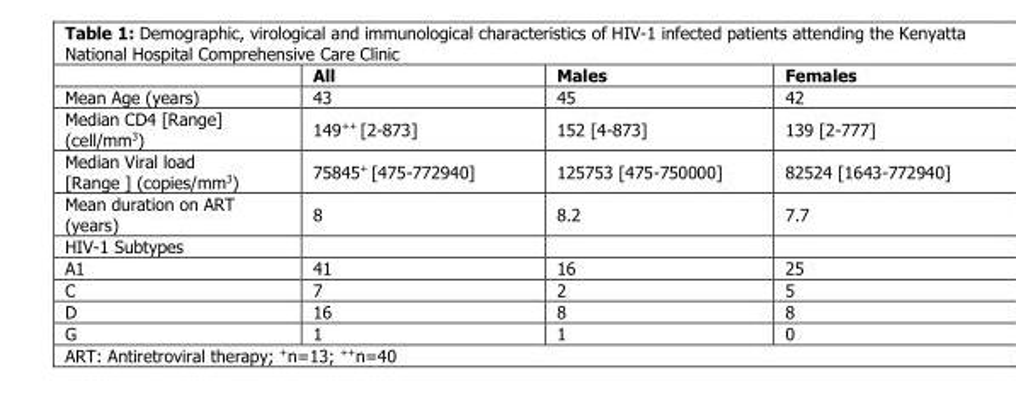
<table><thead><tr><td></td><td>All</td><td>Males</td><td>Females</td></tr></thead><tbody><tr><td>Mean Age (years)</td><td>43</td><td>45</td><td>42</td></tr><tr><td>Median CD4 [Range] (cell/mm<sup>3</sup>)</td><td>149<sup>++</sup> [2-873]</td><td>152 [4-873]</td><td>139 [2-777]</td></tr><tr><td>Median Viral load [Range ] (copies/mm<sup>3</sup>)</td><td>75845<sup>+</sup> [475-772940]</td><td>125753 [475-750000]</td><td>82524 [1643-772940]</td></tr><tr><td>Mean duration on ART (years)</td><td>8</td><td>8.2</td><td>7.7</td></tr><tr><td colspan="4">HIV-1 Subtypes</td></tr><tr><td>A1</td><td>41</td><td>16</td><td>25</td></tr><tr><td>C</td><td>7</td><td>2</td><td>5</td></tr><tr><td>D</td><td>16</td><td>8</td><td>8</td></tr><tr><td>G</td><td>1</td><td>1</td><td>0</td></tr></tbody></table>